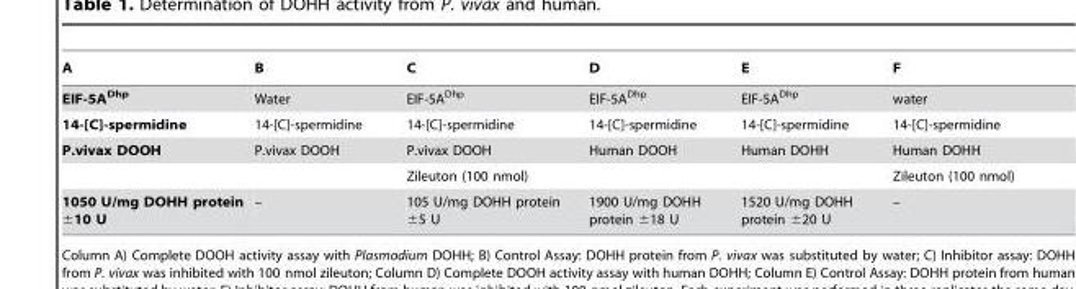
<table><thead><tr><td>A</td><td>B</td><td>C</td><td>D</td><td>E</td><td>F</td></tr></thead><tbody><tr><td>EIF-5A<sup>Dhp</sup></td><td>Water</td><td>EIF-5A<sup>Dhp</sup></td><td>EIF-5A<sup>Dhp</sup></td><td>EIF-5A<sup>Dhp</sup></td><td>water</td></tr><tr><td>14-[C]-spermidine</td><td>14-[C]-spermidine</td><td>14-[C]-spermidine</td><td>14-[C]-spermidine</td><td>14-[C]-spermidine</td><td>14-[C]-spermidine</td></tr><tr><td rowspan="2">P.vivax DOOH</td><td>P.vivax DOOH</td><td>P.vivax DOOH</td><td>Human DOOH</td><td>Human DOHH</td><td>Human DOHH</td></tr><tr><td></td><td>Zileuton (100 nmol)</td><td></td><td></td><td>Zileuton (100 nmol)</td></tr><tr><td>1050 U/mg DOHH protein ±10 U</td><td>–</td><td>105 U/mg DOHH protein ±5 U</td><td>1900 U/mg DOHH protein ±18 U</td><td>1520 U/mg DOHH protein ±20 U</td><td>–</td></tr></tbody></table>